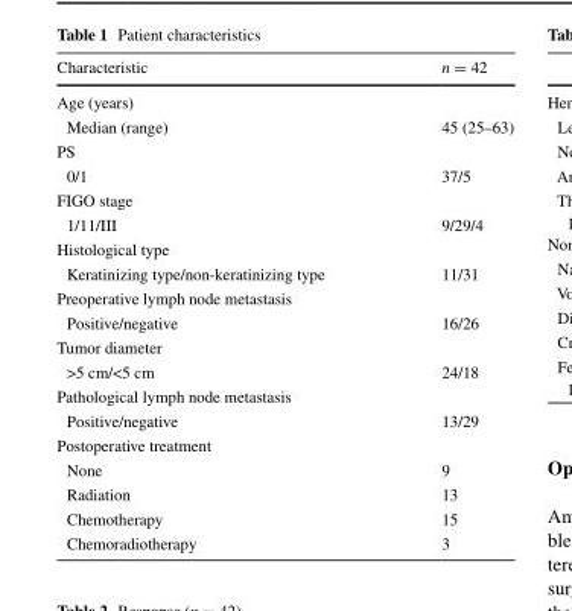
<table><thead><tr><td>Characteristic</td><td>n = 42</td></tr></thead><tbody><tr><td colspan="2">Age (years)</td></tr><tr><td>Median (range)</td><td>45 (25–63)</td></tr><tr><td colspan="2">PS</td></tr><tr><td>0/1</td><td>37/5</td></tr><tr><td colspan="2">FIGO stage</td></tr><tr><td>1/11/III</td><td>9/29/4</td></tr><tr><td colspan="2">Histological type</td></tr><tr><td>Keratinizing type/non-keratinizing type</td><td>11/31</td></tr><tr><td colspan="2">Preoperative lymph node metastasis</td></tr><tr><td>Positive/negative</td><td>16/26</td></tr><tr><td colspan="2">Tumor diameter</td></tr><tr><td>&gt;5 cm/&lt;5 cm</td><td>24/18</td></tr><tr><td colspan="2">Pathological lymph node metastasis</td></tr><tr><td>Positive/negative</td><td>13/29</td></tr><tr><td colspan="2">Postoperative treatment</td></tr><tr><td>None</td><td>9</td></tr><tr><td>Radiation</td><td>13</td></tr><tr><td>Chemotherapy</td><td>15</td></tr><tr><td>Chemoradiotherapy</td><td>3</td></tr></tbody></table>